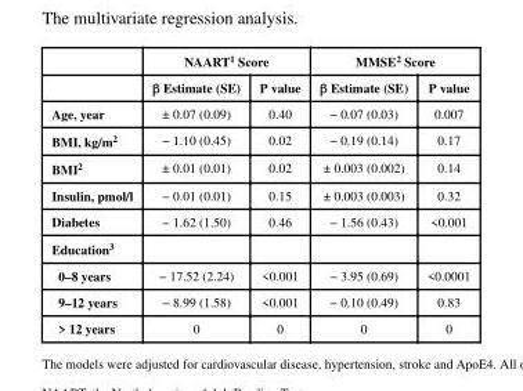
<table><thead><tr><td rowspan="2"></td><td colspan="2">NAART<sup>1</sup> Score</td><td colspan="2">MMSE<sup>2</sup> Score</td></tr><tr><td>β Estimate (SE)</td><td>P value</td><td>β Estimate (SE)</td><td>P value</td></tr></thead><tbody><tr><td>Age, year</td><td>± 0.07 (0.09)</td><td>0.40</td><td>− 0.07 (0.03)</td><td>0.007</td></tr><tr><td>BMI, kg/m<sup>2</sup></td><td>− 1.10 (0.45)</td><td>0.02</td><td>− 0.19 (0.14)</td><td>0.17</td></tr><tr><td>BMI<sup>2</sup></td><td>± 0.01 (0.01)</td><td>0.02</td><td>± 0.003 (0.002)</td><td>0.14</td></tr><tr><td>Insulin, pmol/l</td><td>− 0.01 (0.01)</td><td>0.15</td><td>± 0.003 (0.003)</td><td>0.32</td></tr><tr><td>Diabetes</td><td>− 1.62 (1.50)</td><td>0.46</td><td>− 1.56 (0.43)</td><td>&lt;0.001</td></tr><tr><td colspan="5">Education<sup>3</sup></td></tr><tr><td>0–8 years</td><td>− 17.52 (2.24)</td><td>&lt;0.001</td><td>− 3.95 (0.69)</td><td>&lt;0.0001</td></tr><tr><td>9–12 years</td><td>− 8.99 (1.58)</td><td>&lt;0.001</td><td>− 0.10 (0.49)</td><td>0.83</td></tr><tr><td>&gt; 12 years</td><td>0</td><td>0</td><td>0</td><td>0</td></tr></tbody></table>